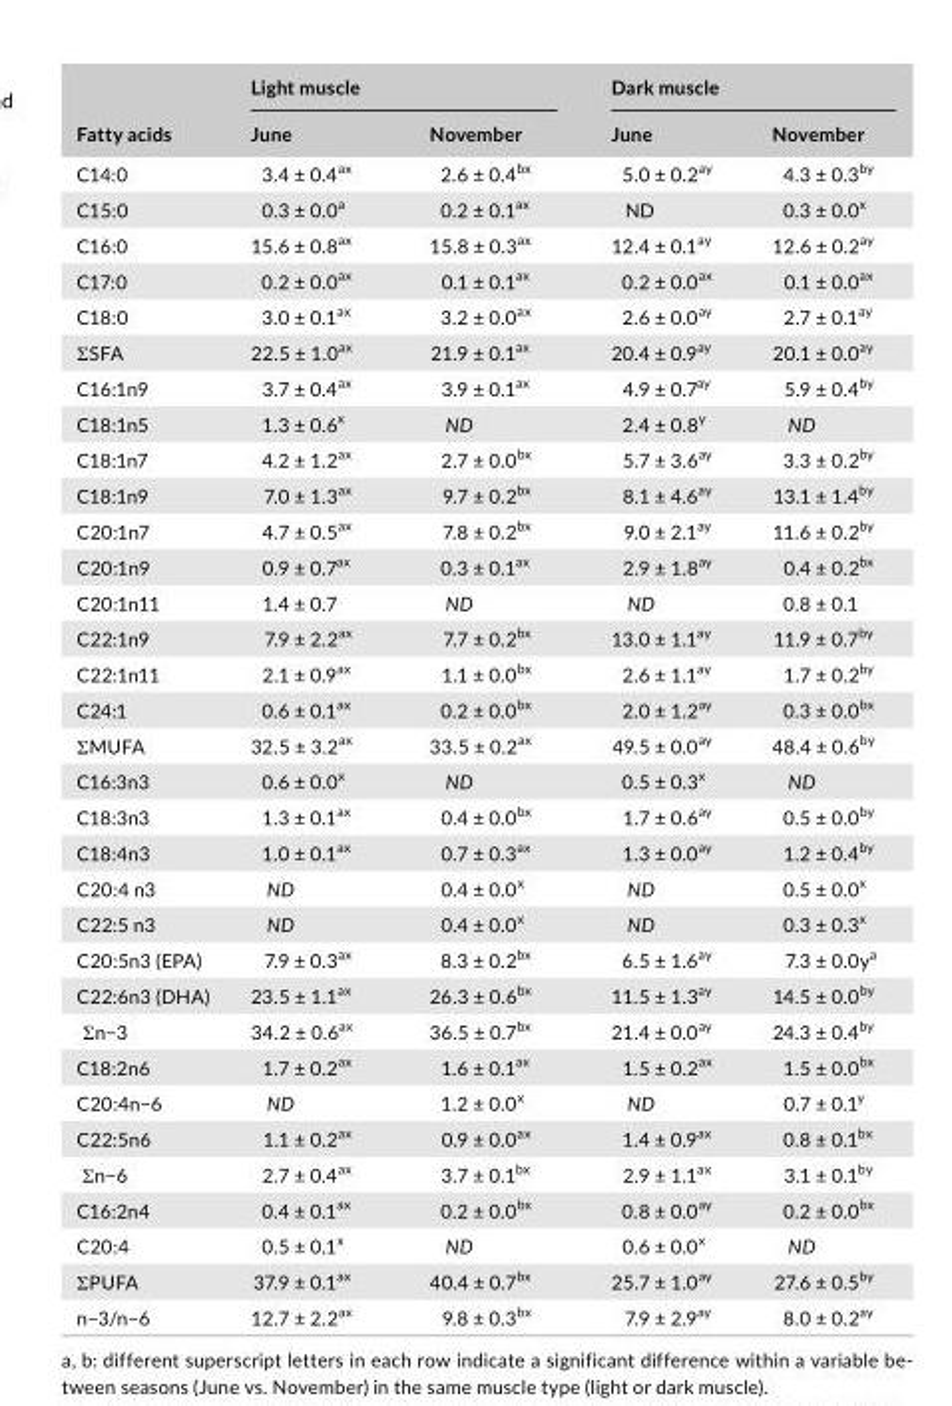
<table><thead><tr><td rowspan="2">Fatty acids</td><td colspan="2">Light muscle</td><td colspan="2">Dark muscle</td></tr><tr><td>June</td><td>November</td><td>June</td><td>November</td></tr></thead><tbody><tr><td>C14:0</td><td>3.4 ± 0.4<sup>ax</sup></td><td>2.6 ± 0.4<sup>bx</sup></td><td>5.0 ± 0.2<sup>ay</sup></td><td>4.3 ± 0.3<sup>by</sup></td></tr><tr><td>C15:0</td><td>0.3 ± 0.0<sup>a</sup></td><td>0.2 ± 0.1<sup>ax</sup></td><td>ND</td><td>0.3 ± 0.0<sup>x</sup></td></tr><tr><td>C16:0</td><td>15.6 ± 0.8<sup>ax</sup></td><td>15.8 ± 0.3<sup>ax</sup></td><td>12.4 ± 0.1<sup>ay</sup></td><td>12.6 ± 0.2<sup>ay</sup></td></tr><tr><td>C17:0</td><td>0.2 ± 0.0<sup>ax</sup></td><td>0.1 ± 0.1<sup>ax</sup></td><td>0.2 ± 0.0<sup>ax</sup></td><td>0.1 ± 0.0<sup>ax</sup></td></tr><tr><td>C18:0</td><td>3.0 ± 0.1<sup>ax</sup></td><td>3.2 ± 0.0<sup>ax</sup></td><td>2.6 ± 0.0<sup>ay</sup></td><td>2.7 ± 0.1<sup>ay</sup></td></tr><tr><td>ΣSFA</td><td>22.5 ± 1.0<sup>ax</sup></td><td>21.9 ± 0.1<sup>ax</sup></td><td>20.4 ± 0.9<sup>ay</sup></td><td>20.1 ± 0.0<sup>ay</sup></td></tr><tr><td>C16:1n9</td><td>3.7 ± 0.4<sup>ax</sup></td><td>3.9 ± 0.1<sup>ax</sup></td><td>4.9 ± 0.7<sup>ay</sup></td><td>5.9 ± 0.4<sup>by</sup></td></tr><tr><td>C18:1n5</td><td>1.3 ± 0.6<sup>x</sup></td><td>ND</td><td>2.4 ± 0.8<sup>y</sup></td><td>ND</td></tr><tr><td>C18:1n7</td><td>4.2 ± 1.2<sup>ax</sup></td><td>2.7 ± 0.0<sup>bx</sup></td><td>5.7 ± 3.6<sup>ay</sup></td><td>3.3 ± 0.2<sup>by</sup></td></tr><tr><td>C18:1n9</td><td>7.0 ± 1.3<sup>ax</sup></td><td>9.7 ± 0.2<sup>bx</sup></td><td>8.1 ± 4.6<sup>ay</sup></td><td>13.1 ± 1.4<sup>by</sup></td></tr><tr><td>C20:1n7</td><td>4.7 ± 0.5<sup>ax</sup></td><td>7.8 ± 0.2<sup>bx</sup></td><td>9.0 ± 2.1<sup>ay</sup></td><td>11.6 ± 0.2<sup>by</sup></td></tr><tr><td>C20:1n9</td><td>0.9 ± 0.7<sup>ax</sup></td><td>0.3 ± 0.1<sup>ax</sup></td><td>2.9 ± 1.8<sup>ay</sup></td><td>0.4 ± 0.2<sup>bx</sup></td></tr><tr><td>C20:1n11</td><td>1.4 ± 0.7</td><td>ND</td><td>ND</td><td>0.8 ± 0.1</td></tr><tr><td>C22:1n9</td><td>7.9 ± 2.2<sup>ax</sup></td><td>7.7 ± 0.2<sup>bx</sup></td><td>13.0 ± 1.1<sup>ay</sup></td><td>11.9 ± 0.7<sup>by</sup></td></tr><tr><td>C22:1n11</td><td>2.1 ± 0.9<sup>ax</sup></td><td>1.1 ± 0.0<sup>bx</sup></td><td>2.6 ± 1.1<sup>ay</sup></td><td>1.7 ± 0.2<sup>by</sup></td></tr><tr><td>C24:1</td><td>0.6 ± 0.1<sup>ax</sup></td><td>0.2 ± 0.0<sup>bx</sup></td><td>2.0 ± 1.2<sup>ay</sup></td><td>0.3 ± 0.0<sup>bx</sup></td></tr><tr><td>ΣMUFA</td><td>32.5 ± 3.2<sup>ax</sup></td><td>33.5 ± 0.2<sup>ax</sup></td><td>49.5 ± 0.0<sup>ay</sup></td><td>48.4 ± 0.6<sup>by</sup></td></tr><tr><td>C16:3n3</td><td>0.6 ± 0.0<sup>x</sup></td><td>ND</td><td>0.5 ± 0.3<sup>x</sup></td><td>ND</td></tr><tr><td>C18:3n3</td><td>1.3 ± 0.1<sup>ax</sup></td><td>0.4 ± 0.0<sup>bx</sup></td><td>1.7 ± 0.6<sup>ay</sup></td><td>0.5 ± 0.0<sup>by</sup></td></tr><tr><td>C18:4n3</td><td>1.0 ± 0.1<sup>ax</sup></td><td>0.7 ± 0.3<sup>ax</sup></td><td>1.3 ± 0.0<sup>ay</sup></td><td>1.2 ± 0.4<sup>by</sup></td></tr><tr><td>C20:4 n3</td><td>ND</td><td>0.4 ± 0.0<sup>x</sup></td><td>ND</td><td>0.5 ± 0.0<sup>x</sup></td></tr><tr><td>C22:5 n3</td><td>ND</td><td>0.4 ± 0.0<sup>x</sup></td><td>ND</td><td>0.3 ± 0.3<sup>x</sup></td></tr><tr><td>C20:5n3 (EPA)</td><td>7.9 ± 0.3<sup>ax</sup></td><td>8.3 ± 0.2<sup>bx</sup></td><td>6.5 ± 1.6<sup>ay</sup></td><td>7.3 ± 0.0y<sup>a</sup></td></tr><tr><td>C22:6n3 (DHA)</td><td>23.5 ± 1.1<sup>ax</sup></td><td>26.3 ± 0.6<sup>bx</sup></td><td>11.5 ± 1.3<sup>ay</sup></td><td>14.5 ± 0.0<sup>by</sup></td></tr><tr><td>Σn−3</td><td>34.2 ± 0.6<sup>ax</sup></td><td>36.5 ± 0.7<sup>bx</sup></td><td>21.4 ± 0.0<sup>ay</sup></td><td>24.3 ± 0.4<sup>by</sup></td></tr><tr><td>C18:2n6</td><td>1.7 ± 0.2<sup>ax</sup></td><td>1.6 ± 0.1<sup>ax</sup></td><td>1.5 ± 0.2<sup>ax</sup></td><td>1.5 ± 0.0<sup>bx</sup></td></tr><tr><td>C20:4n−6</td><td>ND</td><td>1.2 ± 0.0<sup>x</sup></td><td>ND</td><td>0.7 ± 0.1<sup>y</sup></td></tr><tr><td>C22:5n6</td><td>1.1 ± 0.2<sup>ax</sup></td><td>0.9 ± 0.0<sup>ax</sup></td><td>1.4 ± 0.9<sup>ax</sup></td><td>0.8 ± 0.1<sup>bx</sup></td></tr><tr><td>Σn−6</td><td>2.7 ± 0.4<sup>ax</sup></td><td>3.7 ± 0.1<sup>bx</sup></td><td>2.9 ± 1.1<sup>ax</sup></td><td>3.1 ± 0.1<sup>by</sup></td></tr><tr><td>C16:2n4</td><td>0.4 ± 0.1<sup>ax</sup></td><td>0.2 ± 0.0<sup>bx</sup></td><td>0.8 ± 0.0<sup>ay</sup></td><td>0.2 ± 0.0<sup>bx</sup></td></tr><tr><td>C20:4</td><td>0.5 ± 0.1<sup>x</sup></td><td>ND</td><td>0.6 ± 0.0<sup>x</sup></td><td>ND</td></tr><tr><td>ΣPUFA</td><td>37.9 ± 0.1<sup>ax</sup></td><td>40.4 ± 0.7<sup>bx</sup></td><td>25.7 ± 1.0<sup>ay</sup></td><td>27.6 ± 0.5<sup>by</sup></td></tr><tr><td>n−3/n−6</td><td>12.7 ± 2.2<sup>ax</sup></td><td>9.8 ± 0.3<sup>bx</sup></td><td>7.9 ± 2.9<sup>ay</sup></td><td>8.0 ± 0.2<sup>ay</sup></td></tr></tbody></table>